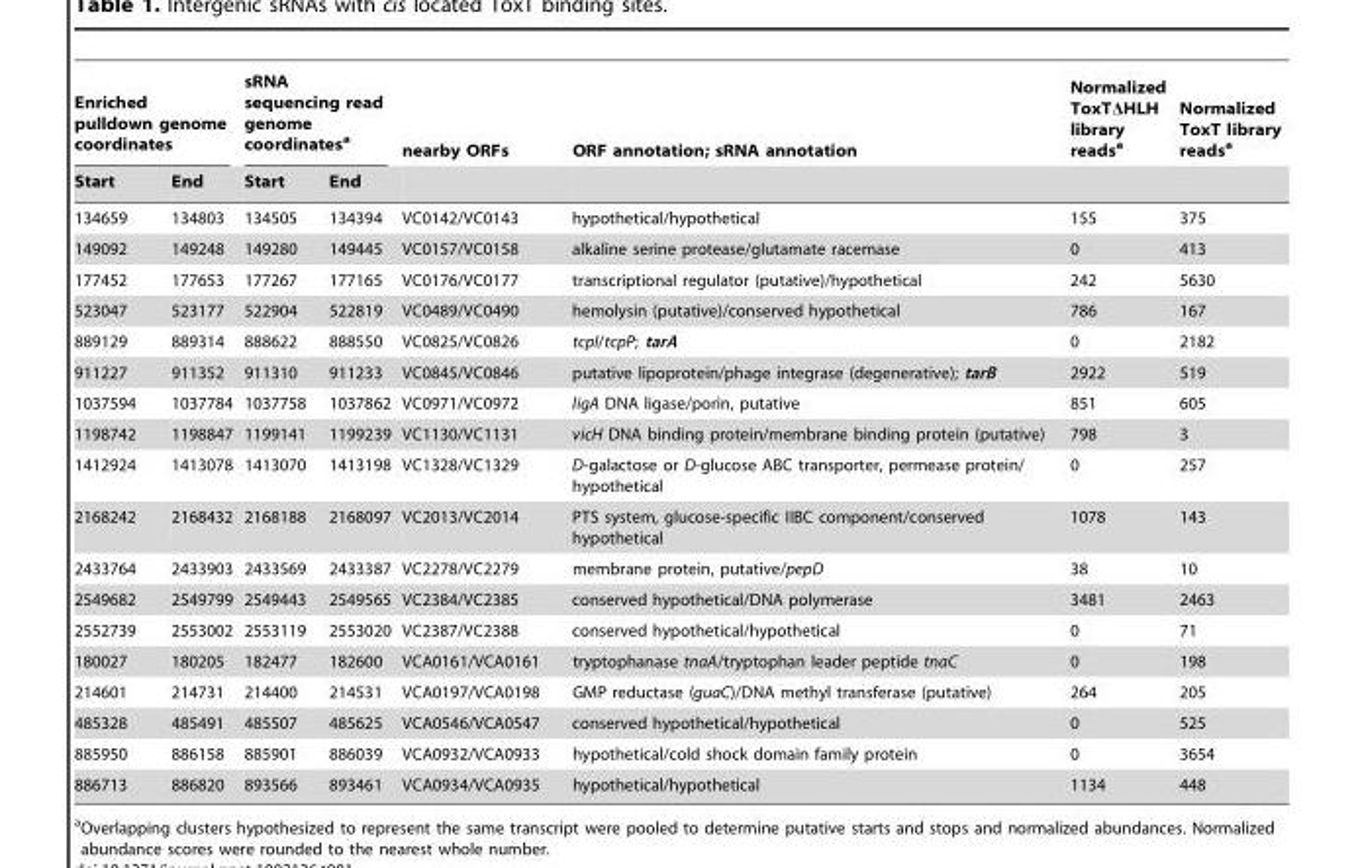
<table><thead><tr><td colspan="2">Enriched pulldown genome coordinates</td><td colspan="2">sRNA sequencing read genome coordinates<sup>a</sup></td><td rowspan="2">nearby ORFs</td><td rowspan="2">ORF annotation; sRNA annotation</td><td rowspan="2">Normalized ToxTΔHLH library reads<sup>a</sup></td><td rowspan="2">Normalized ToxT library reads<sup>a</sup></td></tr><tr><td>Start</td><td>End</td><td>Start</td><td>End</td></tr></thead><tbody><tr><td>134659</td><td>134803</td><td>134505</td><td>134394</td><td>VC0142/VC0143</td><td>hypothetical/hypothetical</td><td>155</td><td>375</td></tr><tr><td>149092</td><td>149248</td><td>149280</td><td>149445</td><td>VC0157/VC0158</td><td>alkaline serine protease/glutamate racemase</td><td>0</td><td>413</td></tr><tr><td>177452</td><td>177653</td><td>177267</td><td>177165</td><td>VC0176/VC0177</td><td>transcriptional regulator (putative)/hypothetical</td><td>242</td><td>5630</td></tr><tr><td>523047</td><td>523177</td><td>522904</td><td>522819</td><td>VC0489/VC0490</td><td>hemolysin (putative)/conserved hypothetical</td><td>786</td><td>167</td></tr><tr><td>889129</td><td>889314</td><td>888622</td><td>888550</td><td>VC0825/VC0826</td><td>tcpI/tcpP; tarA</td><td>0</td><td>2182</td></tr><tr><td>911227</td><td>911352</td><td>911310</td><td>911233</td><td>VC0845/VC0846</td><td>putative lipoprotein/phage integrase (degenerative); tarB</td><td>2922</td><td>519</td></tr><tr><td>1037594</td><td>1037784</td><td>1037758</td><td>1037862</td><td>VC0971/VC0972</td><td>ligA DNA ligase/porin, putative</td><td>851</td><td>605</td></tr><tr><td>1198742</td><td>1198847</td><td>1199141</td><td>1199239</td><td>VC1130/VC1131</td><td>vicH DNA binding protein/membrane binding protein (putative)</td><td>798</td><td>3</td></tr><tr><td>1412924</td><td>1413078</td><td>1413070</td><td>1413198</td><td>VC1328/VC1329</td><td>D-galactose or D-glucose ABC transporter, permease protein/ hypothetical</td><td>0</td><td>257</td></tr><tr><td>2168242</td><td>2168432</td><td>2168188</td><td>2168097</td><td>VC2013/VC2014</td><td>PTS system, glucose-specific IIBC component/conserved hypothetical</td><td>1078</td><td>143</td></tr><tr><td>2433764</td><td>2433903</td><td>2433569</td><td>2433387</td><td>VC2278/VC2279</td><td>membrane protein, putative/pepD</td><td>38</td><td>10</td></tr><tr><td>2549682</td><td>2549799</td><td>2549443</td><td>2549565</td><td>VC2384/VC2385</td><td>conserved hypothetical/DNA polymerase</td><td>3481</td><td>2463</td></tr><tr><td>2552739</td><td>2553002</td><td>2553119</td><td>2553020</td><td>VC2387/VC2388</td><td>conserved hypothetical/hypothetical</td><td>0</td><td>71</td></tr><tr><td>180027</td><td>180205</td><td>182477</td><td>182600</td><td>VCA0161/VCA0161</td><td>tryptophanase tnaA/tryptophan leader peptide tnaC</td><td>0</td><td>198</td></tr><tr><td>214601</td><td>214731</td><td>214400</td><td>214531</td><td>VCA0197/VCA0198</td><td>GMP reductase (guaC)/DNA methyl transferase (putative)</td><td>264</td><td>205</td></tr><tr><td>485328</td><td>485491</td><td>485507</td><td>485625</td><td>VCA0546/VCA0547</td><td>conserved hypothetical/hypothetical</td><td>0</td><td>525</td></tr><tr><td>885950</td><td>886158</td><td>885901</td><td>886039</td><td>VCA0932/VCA0933</td><td>hypothetical/cold shock domain family protein</td><td>0</td><td>3654</td></tr><tr><td>886713</td><td>886820</td><td>893566</td><td>893461</td><td>VCA0934/VCA0935</td><td>hypothetical/hypothetical</td><td>1134</td><td>448</td></tr></tbody></table>